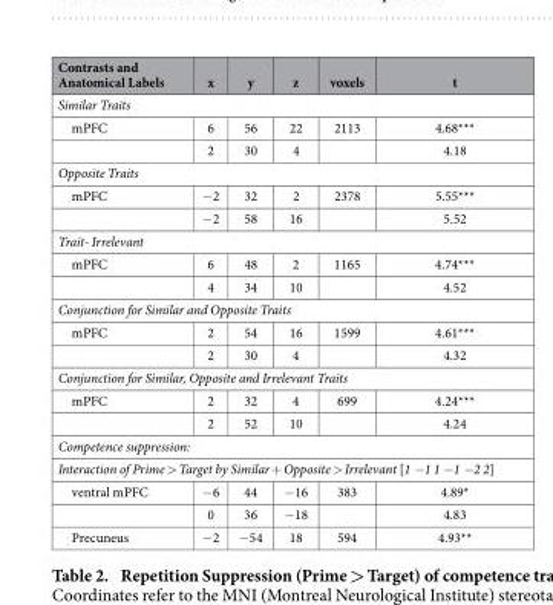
<table><thead><tr><td>Contrasts and Anatomical Labels</td><td>x</td><td>y</td><td>z</td><td>voxels</td><td>t</td></tr></thead><tbody><tr><td colspan="6">Similar Traits</td></tr><tr><td rowspan="2">mPFC</td><td>6</td><td>56</td><td>22</td><td>2113</td><td>4.68***</td></tr><tr><td>2</td><td>30</td><td>4</td><td></td><td>4.18</td></tr><tr><td colspan="6">Opposite Traits</td></tr><tr><td rowspan="2">mPFC</td><td>− 2</td><td>32</td><td>2</td><td>2378</td><td>5.55***</td></tr><tr><td>− 2</td><td>58</td><td>16</td><td></td><td>5.52</td></tr><tr><td colspan="6">Trait- Irrelevant</td></tr><tr><td rowspan="2">mPFC</td><td>6</td><td>48</td><td>2</td><td>1165</td><td>4.74***</td></tr><tr><td>4</td><td>34</td><td>10</td><td></td><td>4.52</td></tr><tr><td colspan="6">Conjunction for Similar and Opposite Traits</td></tr><tr><td rowspan="2">mPFC</td><td>2</td><td>54</td><td>16</td><td>1599</td><td>4.61***</td></tr><tr><td>2</td><td>30</td><td>4</td><td></td><td>4.32</td></tr><tr><td colspan="6">Conjunction for Similar, Opposite and Irrelevant Traits</td></tr><tr><td rowspan="2">mPFC</td><td>2</td><td>32</td><td>4</td><td>699</td><td>4.24***</td></tr><tr><td>2</td><td>52</td><td>10</td><td></td><td>4.24</td></tr><tr><td colspan="6">Competence suppression:</td></tr><tr><td colspan="6">Interaction of Prime &gt; Target by Similar + Opposite &gt; Irrelevant [1 −1 1 −1 −2 2]</td></tr><tr><td rowspan="2">ventral mPFC</td><td>− 6</td><td>44</td><td>− 16</td><td>383</td><td>4.89*</td></tr><tr><td>0</td><td>36</td><td>− 18</td><td></td><td>4.83</td></tr><tr><td>Precuneus</td><td>− 2</td><td>− 54</td><td>18</td><td>594</td><td>4.93**</td></tr></tbody></table>